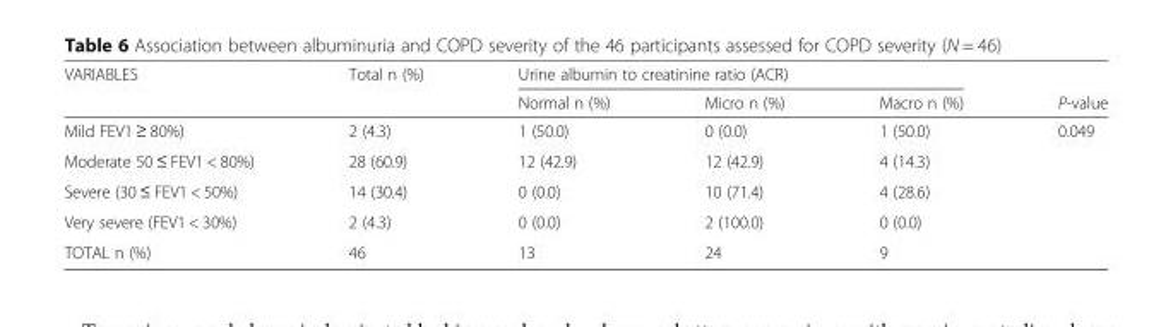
<table><thead><tr><td rowspan="2">VARIABLES</td><td rowspan="2">Total n (%)</td><td colspan="3">Urine albumin to creatinine ratio (ACR)</td><td rowspan="2">P-value</td></tr><tr><td>Normal n (%)</td><td>Micro n (%)</td><td>Macro n (%)</td></tr></thead><tbody><tr><td>Mild FEV1 ≥ 80%)</td><td>2 (4.3)</td><td>1 (50.0)</td><td>0 (0.0)</td><td>1 (50.0)</td><td rowspan="5">0.049</td></tr><tr><td>Moderate 50 ≤ FEV1 &lt; 80%)</td><td>28 (60.9)</td><td>12 (42.9)</td><td>12 (42.9)</td><td>4 (14.3)</td></tr><tr><td>Severe (30 ≤ FEV1 &lt; 50%)</td><td>14 (30.4)</td><td>0 (0.0)</td><td>10 (71.4)</td><td>4 (28.6)</td></tr><tr><td>Very severe (FEV1 &lt; 30%)</td><td>2 (4.3)</td><td>0 (0.0)</td><td>2 (100.0)</td><td>0 (0.0)</td></tr><tr><td>TOTAL n (%)</td><td>46</td><td>13</td><td>24</td><td>9</td></tr></tbody></table>